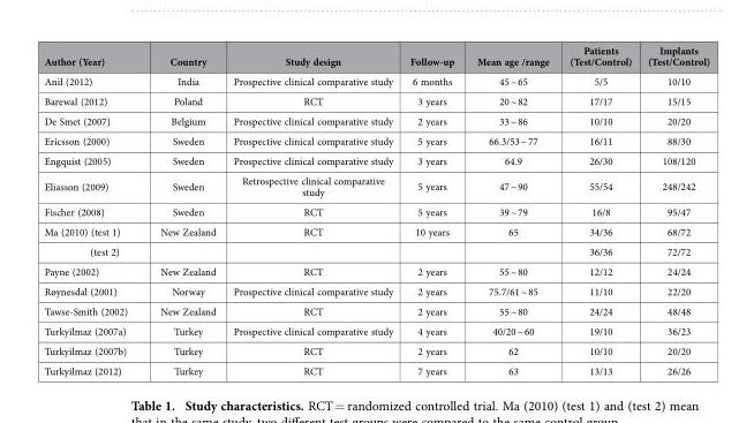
<table><thead><tr><td>Author (Year)</td><td>Country</td><td>Study design</td><td>Follow-up</td><td>Mean age /range</td><td>Patients (Test/Control)</td><td>Implants (Test/Control)</td></tr></thead><tbody><tr><td>Anil (2012)</td><td>India</td><td>Prospective clinical comparative study</td><td>6 months</td><td>45 ~ 65</td><td>5/5</td><td>10/10</td></tr><tr><td>Barewal (2012)</td><td>Poland</td><td>RCT</td><td>3 years</td><td>20 ~ 82</td><td>17/17</td><td>15/15</td></tr><tr><td>De Smet (2007)</td><td>Belgium</td><td>Prospective clinical comparative study</td><td>2 years</td><td>33 ~ 86</td><td>10/10</td><td>20/20</td></tr><tr><td>Ericsson (2000)</td><td>Sweden</td><td>Prospective clinical comparative study</td><td>5 years</td><td>66.3/53 ~ 77</td><td>16/11</td><td>88/30</td></tr><tr><td>Engquist (2005)</td><td>Sweden</td><td>Prospective clinical comparative study</td><td>3 years</td><td>64.9</td><td>26/30</td><td>108/120</td></tr><tr><td>Eliasson (2009)</td><td>Sweden</td><td>Retrospective clinical comparative study</td><td>5 years</td><td>47 ~ 90</td><td>55/54</td><td>248/242</td></tr><tr><td>Fischer (2008)</td><td>Sweden</td><td>RCT</td><td>5 years</td><td>39 ~ 79</td><td>16/8</td><td>95/47</td></tr><tr><td>Ma (2010) (test 1)</td><td>New Zealand</td><td>RCT</td><td>10 years</td><td>65</td><td>34/36</td><td>68/72</td></tr><tr><td>(test 2)</td><td></td><td></td><td></td><td></td><td>36/36</td><td>72/72</td></tr><tr><td>Payne (2002)</td><td>New Zealand</td><td>RCT</td><td>2 years</td><td>55 ~ 80</td><td>12/12</td><td>24/24</td></tr><tr><td>Røynesdal (2001)</td><td>Norway</td><td>Prospective clinical comparative study</td><td>2 years</td><td>75.7/61 ~ 85</td><td>11/10</td><td>22/20</td></tr><tr><td>Tawse-Smith (2002)</td><td>New Zealand</td><td>RCT</td><td>2 years</td><td>55 ~ 80</td><td>24/24</td><td>48/48</td></tr><tr><td>Turkyilmaz (2007a)</td><td>Turkey</td><td>Prospective clinical comparative study</td><td>4 years</td><td>40/20 ~ 60</td><td>19/10</td><td>36/23</td></tr><tr><td>Turkyilmaz (2007b)</td><td>Turkey</td><td>RCT</td><td>2 years</td><td>62</td><td>10/10</td><td>20/20</td></tr><tr><td>Turkyilmaz (2012)</td><td>Turkey</td><td>RCT</td><td>7 years</td><td>63</td><td>13/13</td><td>26/26</td></tr></tbody></table>